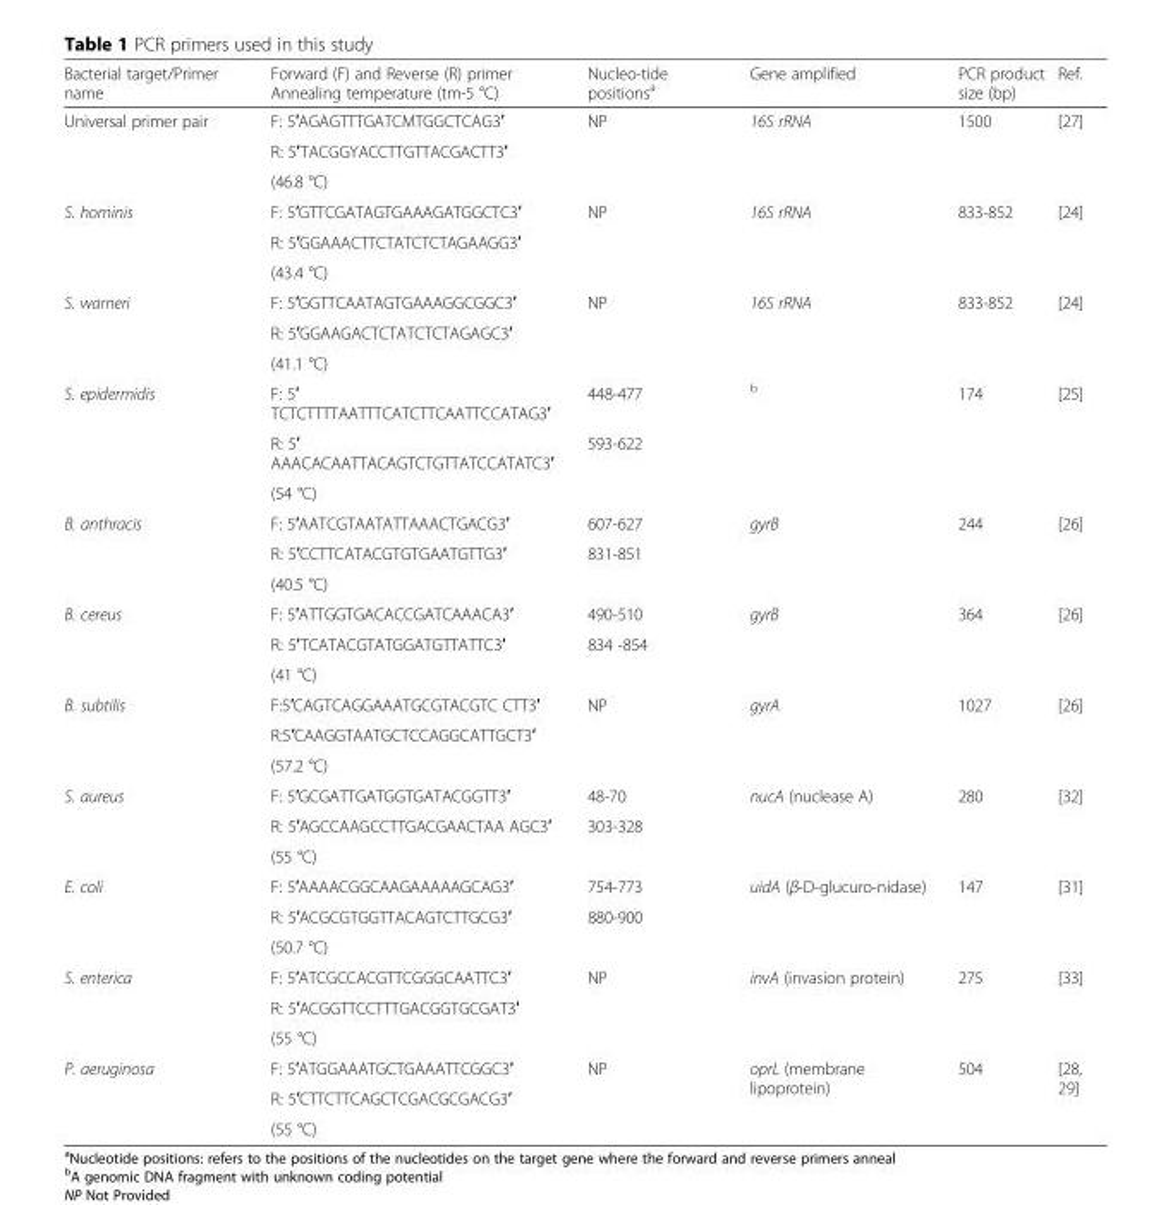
<table><thead><tr><td>Bacterial target/Primer name</td><td>Forward (F) and Reverse (R) primer Annealing temperature (tm-5 °C)</td><td>Nucleo-tide positions<sup>a</sup></td><td>Gene amplified</td><td>PCR product size (bp)</td><td>Ref.</td></tr></thead><tbody><tr><td rowspan="3">Universal primer pair</td><td>F: 5′AGAGTTTGATCMTGGCTCAG3′</td><td rowspan="3">NP</td><td rowspan="3">16S rRNA</td><td rowspan="3">1500</td><td rowspan="3">[27]</td></tr><tr><td>R: 5′TACGGYACCTTGTTACGACTT3′</td></tr><tr><td>(46.8 °C)</td></tr><tr><td rowspan="3">S. hominis</td><td>F: 5′GTTCGATAGTGAAAGATGGCTC3′</td><td rowspan="3">NP</td><td rowspan="3">16S rRNA</td><td rowspan="3">833-852</td><td rowspan="3">[24]</td></tr><tr><td>R: 5′GGAAACTTCTATCTCTAGAAGG3′</td></tr><tr><td>(43.4 °C)</td></tr><tr><td rowspan="3">S. warneri</td><td>F: 5′GGTTCAATAGTGAAAGGCGGC3′</td><td rowspan="3">NP</td><td rowspan="3">16S rRNA</td><td rowspan="3">833-852</td><td rowspan="3">[24]</td></tr><tr><td>R: 5′GGAAGACTCTATCTCTAGAGC3′</td></tr><tr><td>(41.1 °C)</td></tr><tr><td rowspan="3">S. epidermidis</td><td>F: 5′ TCTCTTTTAATTTCATCTTCAATTCCATAG3′</td><td>448-477</td><td rowspan="3"><sup>b</sup></td><td rowspan="3">174</td><td rowspan="3">[25]</td></tr><tr><td>R: 5′ AAACACAATTACAGTCTGTTATCCATATC3′</td><td rowspan="2">593-622</td></tr><tr><td>(54 °C)</td></tr><tr><td rowspan="3">B. anthracis</td><td>F: 5′AATCGTAATATTAAACTGACG3′</td><td>607-627</td><td rowspan="3">gyrB</td><td rowspan="3">244</td><td rowspan="3">[26]</td></tr><tr><td>R: 5′CCTTCATACGTGTGAATGTTG3′</td><td rowspan="2">831-851</td></tr><tr><td>(40.5 °C)</td></tr><tr><td rowspan="3">B. cereus</td><td>F: 5′ATTGGTGACACCGATCAAACA3′</td><td>490-510</td><td rowspan="3">gyrB</td><td rowspan="3">364</td><td rowspan="3">[26]</td></tr><tr><td>R: 5′TCATACGTATGGATGTTATTC3′</td><td rowspan="2">834 -854</td></tr><tr><td>(41 °C)</td></tr><tr><td rowspan="3">B. subtilis</td><td>F:5′CAGTCAGGAAATGCGTACGTC CTT3′</td><td rowspan="3">NP</td><td rowspan="3">gyrA</td><td rowspan="3">1027</td><td rowspan="3">[26]</td></tr><tr><td>R:5′CAAGGTAATGCTCCAGGCATTGCT3′</td></tr><tr><td>(57.2 °C)</td></tr><tr><td rowspan="3">S. aureus</td><td>F: 5′GCGATTGATGGTGATACGGTT3′</td><td>48-70</td><td rowspan="3">nucA (nuclease A)</td><td rowspan="3">280</td><td rowspan="3">[32]</td></tr><tr><td>R: 5′AGCCAAGCCTTGACGAACTAA AGC3′</td><td rowspan="2">303-328</td></tr><tr><td>(55 °C)</td></tr><tr><td rowspan="3">E. coli</td><td>F: 5′AAAACGGCAAGAAAAAGCAG3′</td><td>754-773</td><td rowspan="3">uidA (β-D-glucuro-nidase)</td><td rowspan="3">147</td><td rowspan="3">[31]</td></tr><tr><td>R: 5′ACGCGTGGTTACAGTCTTGCG3′</td><td rowspan="2">880-900</td></tr><tr><td>(50.7 °C)</td></tr><tr><td rowspan="3">S. enterica</td><td>F: 5′ATCGCCACGTTCGGGCAATTC3′</td><td rowspan="3">NP</td><td rowspan="3">invA (invasion protein)</td><td rowspan="3">275</td><td rowspan="3">[33]</td></tr><tr><td>R: 5′ACGGTTCCTTTGACGGTGCGAT3′</td></tr><tr><td>(55 °C)</td></tr><tr><td rowspan="3">P. aeruginosa</td><td>F: 5′ATGGAAATGCTGAAATTCGGC3′</td><td rowspan="3">NP</td><td rowspan="3">oprL (membrane lipoprotein)</td><td rowspan="3">504</td><td rowspan="3">[28, 29]</td></tr><tr><td>R: 5′CTTCTTCAGCTCGACGCGACG3′</td></tr><tr><td>(55 °C)</td></tr></tbody></table>